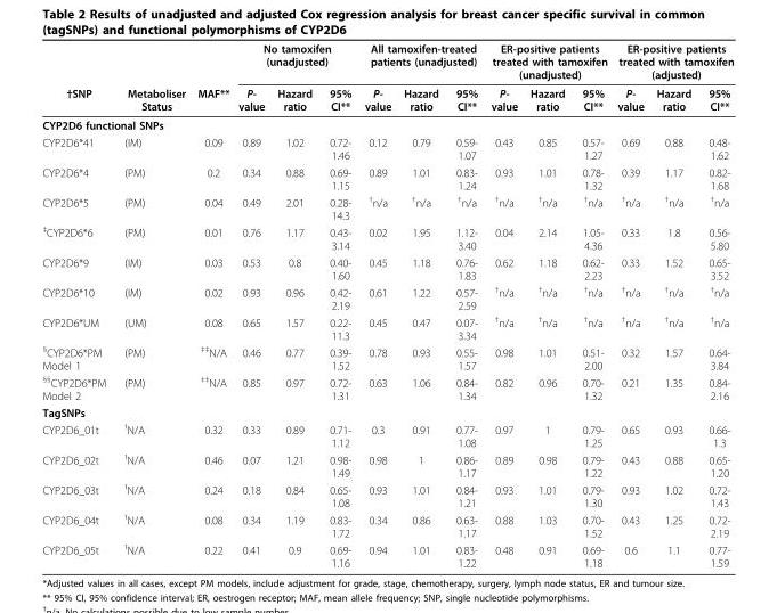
<table><thead><tr><td rowspan="2">†SNP</td><td rowspan="2">Metaboliser Status</td><td rowspan="2">MAF**</td><td colspan="3">No tamoxifen (unadjusted)</td><td colspan="3">All tamoxifen-treated patients (unadjusted)</td><td colspan="3">ER-positive patients treated with tamoxifen (unadjusted)</td><td colspan="3">ER-positive patients treated with tamoxifen (adjusted)</td></tr><tr><td>P- value</td><td>Hazard ratio</td><td>95% CI**</td><td>P- value</td><td>Hazard ratio</td><td>95% CI**</td><td>P- value</td><td>Hazard ratio</td><td>95% CI**</td><td>P- value</td><td>Hazard ratio</td><td>95% CI**</td></tr></thead><tbody><tr><td colspan="15">CYP2D6 functional SNPs</td></tr><tr><td>CYP2D6*41</td><td>(IM)</td><td>0.09</td><td>0.89</td><td>1.02</td><td>0.72- 1.46</td><td>0.12</td><td>0.79</td><td>0.59- 1.07</td><td>0.43</td><td>0.85</td><td>0.57- 1.27</td><td>0.69</td><td>0.88</td><td>0.48- 1.62</td></tr><tr><td>CYP2D6*4</td><td>(PM)</td><td>0.2</td><td>0.34</td><td>0.88</td><td>0.69- 1.15</td><td>0.89</td><td>1.01</td><td>0.83- 1.24</td><td>0.93</td><td>1.01</td><td>0.78- 1.32</td><td>0.39</td><td>1.17</td><td>0.82- 1.68</td></tr><tr><td>CYP2D6*5</td><td>(PM)</td><td>0.04</td><td>0.49</td><td>2.01</td><td>0.28- 14.3</td><td><sup>†</sup>n/a</td><td><sup>†</sup>n/a</td><td><sup>†</sup>n/a</td><td><sup>†</sup>n/a</td><td><sup>†</sup>n/a</td><td><sup>†</sup>n/a</td><td><sup>†</sup>n/a</td><td><sup>†</sup>n/a</td><td><sup>†</sup>n/a</td></tr><tr><td><sup>‡</sup>CYP2D6*6</td><td>(PM)</td><td>0.01</td><td>0.76</td><td>1.17</td><td>0.43- 3.14</td><td>0.02</td><td>1.95</td><td>1.12- 3.40</td><td>0.04</td><td>2.14</td><td>1.05- 4.36</td><td>0.33</td><td>1.8</td><td>0.56- 5.80</td></tr><tr><td>CYP2D6*9</td><td>(IM)</td><td>0.03</td><td>0.53</td><td>0.8</td><td>0.40- 1.60</td><td>0.45</td><td>1.18</td><td>0.76- 1.83</td><td>0.62</td><td>1.18</td><td>0.62- 2.23</td><td>0.33</td><td>1.52</td><td>0.65- 3.52</td></tr><tr><td>CYP2D6*10</td><td>(IM)</td><td>0.02</td><td>0.93</td><td>0.96</td><td>0.42- 2.19</td><td>0.61</td><td>1.22</td><td>0.57- 2.59</td><td><sup>†</sup>n/a</td><td><sup>†</sup>n/a</td><td><sup>†</sup>n/a</td><td><sup>†</sup>n/a</td><td><sup>†</sup>n/a</td><td><sup>†</sup>n/a</td></tr><tr><td>CYP2D6*UM</td><td>(UM)</td><td>0.08</td><td>0.65</td><td>1.57</td><td>0.22- 11.3</td><td>0.45</td><td>0.47</td><td>0.07- 3.34</td><td><sup>†</sup>n/a</td><td><sup>†</sup>n/a</td><td><sup>†</sup>n/a</td><td><sup>†</sup>n/a</td><td><sup>†</sup>n/a</td><td><sup>†</sup>n/a</td></tr><tr><td><sup>§</sup>CYP2D6*PM Model 1</td><td>(PM)</td><td><sup>‡‡</sup>N/A</td><td>0.46</td><td>0.77</td><td>0.39- 1.52</td><td>0.78</td><td>0.93</td><td>0.55- 1.57</td><td>0.98</td><td>1.01</td><td>0.51- 2.00</td><td>0.32</td><td>1.57</td><td>0.64- 3.84</td></tr><tr><td><sup>§§</sup>CYP2D6*PM Model 2</td><td>(PM)</td><td><sup>‡‡</sup>N/A</td><td>0.85</td><td>0.97</td><td>0.72- 1.31</td><td>0.63</td><td>1.06</td><td>0.84- 1.34</td><td>0.82</td><td>0.96</td><td>0.70- 1.32</td><td>0.21</td><td>1.35</td><td>0.84- 2.16</td></tr><tr><td colspan="15">TagSNPs</td></tr><tr><td>CYP2D6_01t</td><td>¹N/A</td><td>0.32</td><td>0.33</td><td>0.89</td><td>0.71- 1.12</td><td>0.3</td><td>0.91</td><td>0.77- 1.08</td><td>0.97</td><td>1</td><td>0.79- 1.25</td><td>0.65</td><td>0.93</td><td>0.66- 1.3</td></tr><tr><td>CYP2D6_02t</td><td>¹N/A</td><td>0.46</td><td>0.07</td><td>1.21</td><td>0.98- 1.49</td><td>0.98</td><td>1</td><td>0.86- 1.17</td><td>0.89</td><td>0.98</td><td>0.79- 1.22</td><td>0.43</td><td>0.88</td><td>0.65- 1.20</td></tr><tr><td>CYP2D6_03t</td><td>¹N/A</td><td>0.24</td><td>0.18</td><td>0.84</td><td>0.65- 1.08</td><td>0.93</td><td>1.01</td><td>0.84- 1.21</td><td>0.93</td><td>1.01</td><td>0.79- 1.30</td><td>0.93</td><td>1.02</td><td>0.72- 1.43</td></tr><tr><td>CYP2D6_04t</td><td>¹N/A</td><td>0.08</td><td>0.34</td><td>1.19</td><td>0.83- 1.72</td><td>0.34</td><td>0.86</td><td>0.63- 1.17</td><td>0.88</td><td>1.03</td><td>0.70- 1.52</td><td>0.43</td><td>1.25</td><td>0.72- 2.19</td></tr><tr><td>CYP2D6_05t</td><td>¹N/A</td><td>0.22</td><td>0.41</td><td>0.9</td><td>0.69- 1.16</td><td>0.94</td><td>1.01</td><td>0.83- 1.22</td><td>0.48</td><td>0.91</td><td>0.69- 1.18</td><td>0.6</td><td>1.1</td><td>0.77- 1.59</td></tr></tbody></table>